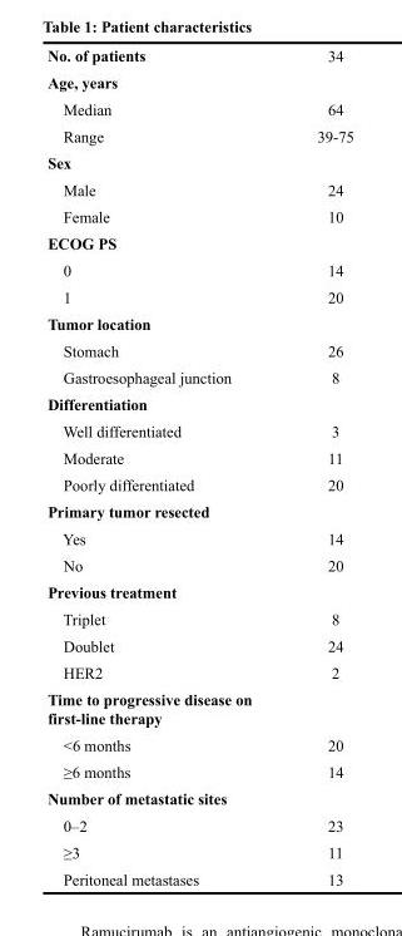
<table><thead><tr><td>No. of patients</td><td>34</td></tr></thead><tbody><tr><td colspan="2">Age, years</td></tr><tr><td>Median</td><td>64</td></tr><tr><td>Range</td><td>39-75</td></tr><tr><td colspan="2">Sex</td></tr><tr><td>Male</td><td>24</td></tr><tr><td>Female</td><td>10</td></tr><tr><td colspan="2">ECOG PS</td></tr><tr><td>0</td><td>14</td></tr><tr><td>1</td><td>20</td></tr><tr><td colspan="2">Tumor location</td></tr><tr><td>Stomach</td><td>26</td></tr><tr><td>Gastroesophageal junction</td><td>8</td></tr><tr><td colspan="2">Differentiation</td></tr><tr><td>Well differentiated</td><td>3</td></tr><tr><td>Moderate</td><td>11</td></tr><tr><td>Poorly differentiated</td><td>20</td></tr><tr><td colspan="2">Primary tumor resected</td></tr><tr><td>Yes</td><td>14</td></tr><tr><td>No</td><td>20</td></tr><tr><td colspan="2">Previous treatment</td></tr><tr><td>Triplet</td><td>8</td></tr><tr><td>Doublet</td><td>24</td></tr><tr><td>HER2</td><td>2</td></tr><tr><td colspan="2">Time to progressive disease on first-line therapy</td></tr><tr><td>&lt;6 months</td><td>20</td></tr><tr><td>≥6 months</td><td>14</td></tr><tr><td colspan="2">Number of metastatic sites</td></tr><tr><td>0–2</td><td>23</td></tr><tr><td>≥3</td><td>11</td></tr><tr><td>Peritoneal metastases</td><td>13</td></tr></tbody></table>